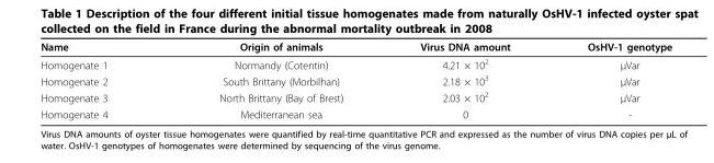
<table><thead><tr><td>Name</td><td>Origin of animals</td><td>Virus DNA amount</td><td>OsHV-1 genotype</td></tr></thead><tbody><tr><td>Homogenate 1</td><td>Normandy (Cotentin)</td><td>4.21 × 10<sup>2</sup></td><td>μVar</td></tr><tr><td>Homogenate 2</td><td>South Brittany (Morbilhan)</td><td>2.18 × 10<sup>3</sup></td><td>μVar</td></tr><tr><td>Homogenate 3</td><td>North Brittany (Bay of Brest)</td><td>2.03 × 10<sup>2</sup></td><td>μVar</td></tr><tr><td>Homogenate 4</td><td>Mediterranean sea</td><td>0</td><td>-</td></tr></tbody></table>